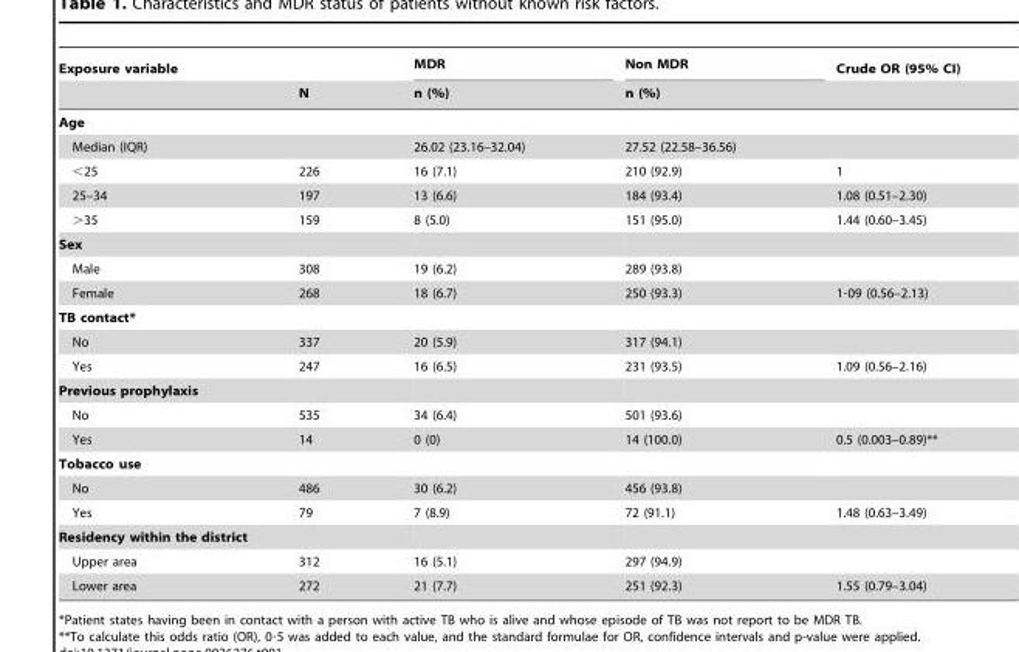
<table><thead><tr><td rowspan="2">Exposure variable</td><td rowspan="2">N</td><td rowspan="2">MDR n (%)</td><td rowspan="2">Non MDR n (%)</td><td rowspan="2">Crude OR (95% CI)</td></tr><tr></tr></thead><tbody><tr><td colspan="5">Age</td></tr><tr><td>Median (IQR)</td><td></td><td>26.02 (23.16–32.04)</td><td>27.52 (22.58–36.56)</td><td></td></tr><tr><td>&lt;25</td><td>226</td><td>16 (7.1)</td><td>210 (92.9)</td><td>1</td></tr><tr><td>25–34</td><td>197</td><td>13 (6.6)</td><td>184 (93.4)</td><td>1.08 (0.51–2.30)</td></tr><tr><td>&gt;35</td><td>159</td><td>8 (5.0)</td><td>151 (95.0)</td><td>1.44 (0.60–3.45)</td></tr><tr><td colspan="5">Sex</td></tr><tr><td>Male</td><td>308</td><td>19 (6.2)</td><td>289 (93.8)</td><td></td></tr><tr><td>Female</td><td>268</td><td>18 (6.7)</td><td>250 (93.3)</td><td>1·09 (0.56–2.13)</td></tr><tr><td colspan="5">TB contact*</td></tr><tr><td>No</td><td>337</td><td>20 (5.9)</td><td>317 (94.1)</td><td></td></tr><tr><td>Yes</td><td>247</td><td>16 (6.5)</td><td>231 (93.5)</td><td>1.09 (0.56–2.16)</td></tr><tr><td colspan="5">Previous prophylaxis</td></tr><tr><td>No</td><td>535</td><td>34 (6.4)</td><td>501 (93.6)</td><td></td></tr><tr><td>Yes</td><td>14</td><td>0 (0)</td><td>14 (100.0)</td><td>0.5 (0.003–0.89)**</td></tr><tr><td colspan="5">Tobacco use</td></tr><tr><td>No</td><td>486</td><td>30 (6.2)</td><td>456 (93.8)</td><td></td></tr><tr><td>Yes</td><td>79</td><td>7 (8.9)</td><td>72 (91.1)</td><td>1.48 (0.63–3.49)</td></tr><tr><td colspan="5">Residency within the district</td></tr><tr><td>Upper area</td><td>312</td><td>16 (5.1)</td><td>297 (94.9)</td><td></td></tr><tr><td>Lower area</td><td>272</td><td>21 (7.7)</td><td>251 (92.3)</td><td>1.55 (0.79–3.04)</td></tr></tbody></table>